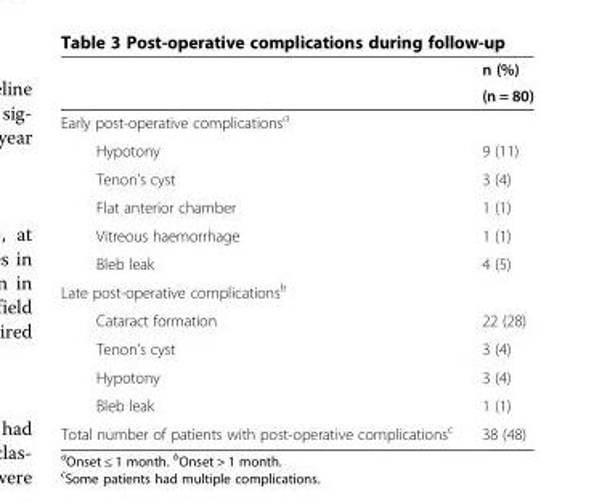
<table><thead><tr><td rowspan="2"></td><td rowspan="2">n (%) (n = 80)</td></tr><tr></tr></thead><tbody><tr><td colspan="2">Early post-operative complications<sup>a</sup></td></tr><tr><td>Hypotony</td><td>9 (11)</td></tr><tr><td>Tenon’s cyst</td><td>3 (4)</td></tr><tr><td>Flat anterior chamber</td><td>1 (1)</td></tr><tr><td>Vitreous haemorrhage</td><td>1 (1)</td></tr><tr><td>Bleb leak</td><td>4 (5)</td></tr><tr><td colspan="2">Late post-operative complications<sup>b</sup></td></tr><tr><td>Cataract formation</td><td>22 (28)</td></tr><tr><td>Tenon’s cyst</td><td>3 (4)</td></tr><tr><td>Hypotony</td><td>3 (4)</td></tr><tr><td>Bleb leak</td><td>1 (1)</td></tr><tr><td>Total number of patients with post-operative complications<sup>c</sup></td><td>38 (48)</td></tr></tbody></table>